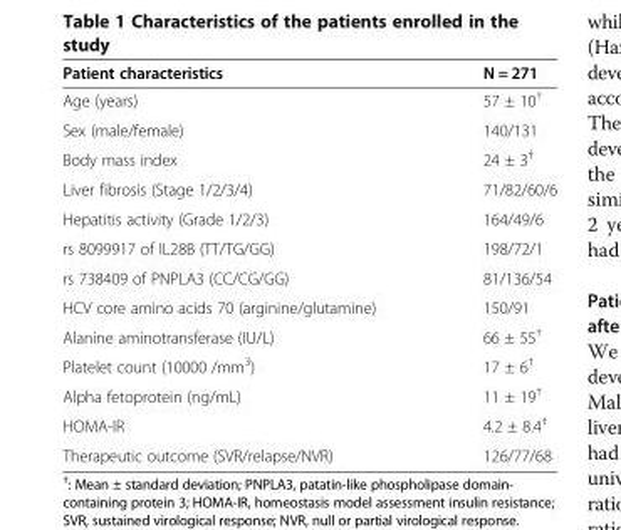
<table><thead><tr><td>Patient characteristics</td><td>N = 271</td></tr></thead><tbody><tr><td>Age (years)</td><td>57 ± 10<sup>†</sup></td></tr><tr><td>Sex (male/female)</td><td>140/131</td></tr><tr><td>Body mass index</td><td>24 ± 3<sup>†</sup></td></tr><tr><td>Liver fibrosis (Stage 1/2/3/4)</td><td>71/82/60/6</td></tr><tr><td>Hepatitis activity (Grade 1/2/3)</td><td>164/49/6</td></tr><tr><td>rs 8099917 of IL28B (TT/TG/GG)</td><td>198/72/1</td></tr><tr><td>rs 738409 of PNPLA3 (CC/CG/GG)</td><td>81/136/54</td></tr><tr><td>HCV core amino acids 70 (arginine/glutamine)</td><td>150/91</td></tr><tr><td>Alanine aminotransferase (IU/L)</td><td>66 ± 55<sup>†</sup></td></tr><tr><td>Platelet count (10000 /mm<sup>3</sup>)</td><td>17 ± 6<sup>†</sup></td></tr><tr><td>Alpha fetoprotein (ng/mL)</td><td>11 ± 19<sup>†</sup></td></tr><tr><td>HOMA-IR</td><td>4.2 ± 8.4<sup>†</sup></td></tr><tr><td>Therapeutic outcome (SVR/relapse/NVR)</td><td>126/77/68</td></tr></tbody></table>